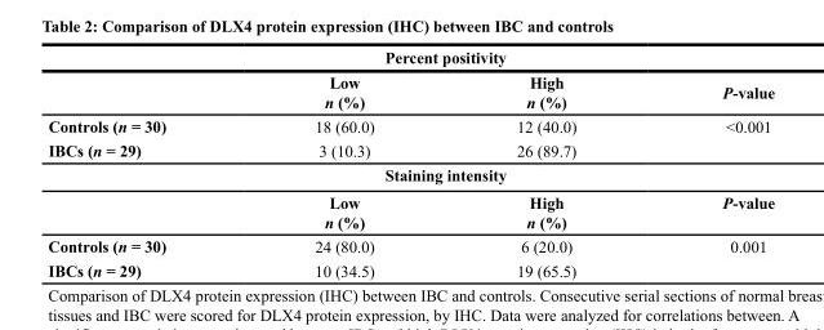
<table><thead><tr><td colspan="4">Percent positivity</td></tr><tr><td></td><td>low n (%)</td><td>High n (%)</td><td>P-value</td></tr></thead><tbody><tr><td>controls (n = 30)</td><td>18 (60.0)</td><td>12 (40.0)</td><td rowspan="2">&lt;0.001</td></tr><tr><td>Ibcs (n = 29)</td><td>3 (10.3)</td><td>26 (89.7)</td></tr><tr><td colspan="4">staining intensity</td></tr><tr><td></td><td>low n (%)</td><td>High n (%)</td><td>P-value</td></tr><tr><td>controls (n = 30)</td><td>24 (80.0)</td><td>6 (20.0)</td><td rowspan="2">0.001</td></tr><tr><td>Ibcs (n = 29)</td><td>10 (34.5)</td><td>19 (65.5)</td></tr></tbody></table>